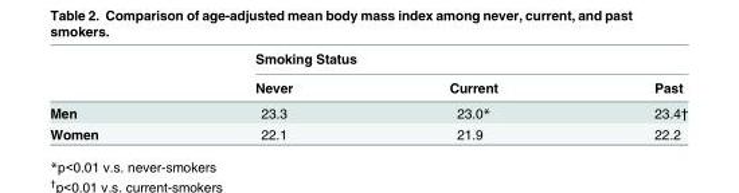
<table><thead><tr><td rowspan="2"></td><td colspan="3">Smoking Status</td></tr><tr><td>Never</td><td>Current</td><td>Past</td></tr></thead><tbody><tr><td>Men</td><td>23.3</td><td>23.0*</td><td>23.4†</td></tr><tr><td>Women</td><td>22.1</td><td>21.9</td><td>22.2</td></tr></tbody></table>